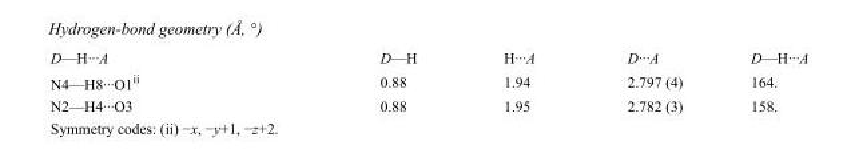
<table><tbody><tr><td>D—H···A</td><td>D—H</td><td>H···A</td><td>D···A</td><td>D—H···A</td></tr><tr><td>N4—H8···O1<sup>ii</sup></td><td>0.88</td><td>1.94</td><td>2.797 (4)</td><td>164.</td></tr><tr><td>N2—H4···O3</td><td>0.88</td><td>1.95</td><td>2.782 (3)</td><td>158.</td></tr></tbody></table>